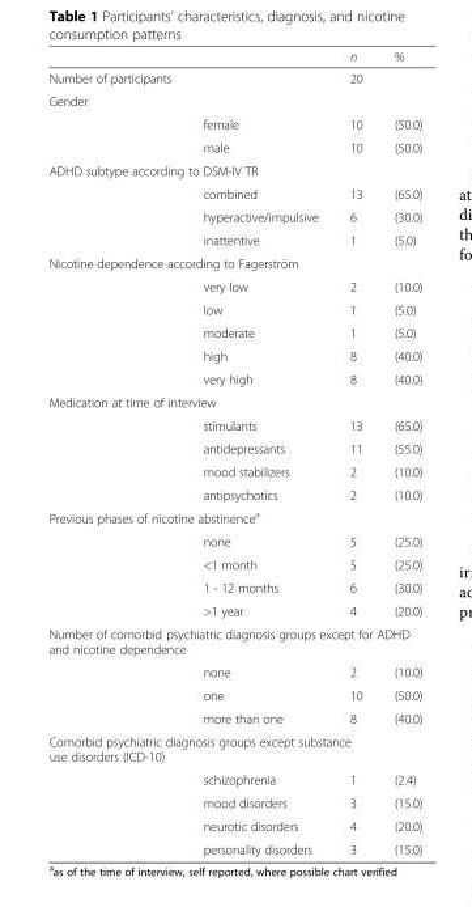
<table><thead><tr><td></td><td></td><td>n</td><td>%</td></tr></thead><tbody><tr><td>Number of participants</td><td></td><td>20</td><td></td></tr><tr><td colspan="4">Gender</td></tr><tr><td></td><td>female</td><td>10</td><td>(50.0)</td></tr><tr><td></td><td>male</td><td>10</td><td>(50.0)</td></tr><tr><td colspan="4">ADHD subtype according to DSM-IV TR</td></tr><tr><td></td><td>combined</td><td>13</td><td>(65.0)</td></tr><tr><td></td><td>hyperactive/impulsive</td><td>6</td><td>(30.0)</td></tr><tr><td></td><td>inattentive</td><td>1</td><td>(5.0)</td></tr><tr><td colspan="4">Nicotine dependence according to Fagerström</td></tr><tr><td></td><td>very low</td><td>2</td><td>(10.0)</td></tr><tr><td></td><td>low</td><td>1</td><td>(5.0)</td></tr><tr><td></td><td>moderate</td><td>1</td><td>(5.0)</td></tr><tr><td rowspan="2"></td><td>high</td><td>8</td><td>(40.0)</td></tr><tr><td>very high</td><td>8</td><td>(40.0)</td></tr><tr><td colspan="4">Medication at time of interview</td></tr><tr><td></td><td>stimulants</td><td>13</td><td>(65.0)</td></tr><tr><td></td><td>antidepressants</td><td>11</td><td>(55.0)</td></tr><tr><td rowspan="2"></td><td>mood stabilizers</td><td>2</td><td>(10.0)</td></tr><tr><td>antipsychotics</td><td>2</td><td>(10.0)</td></tr><tr><td colspan="4">Previous phases of nicotine abstinence<sup>a</sup></td></tr><tr><td></td><td>none</td><td>5</td><td>(25.0)</td></tr><tr><td></td><td>&lt;1 month</td><td>5</td><td>(25.0)</td></tr><tr><td></td><td>1 - 12 months</td><td>6</td><td>(30.0)</td></tr><tr><td></td><td>&gt;1 year</td><td>4</td><td>(20.0)</td></tr><tr><td colspan="4">Number of comorbid psychiatric diagnosis groups except for ADHD and nicotine dependence</td></tr><tr><td></td><td>none</td><td>2</td><td>(10.0)</td></tr><tr><td></td><td>one</td><td>10</td><td>(50.0)</td></tr><tr><td></td><td>more than one</td><td>8</td><td>(40.0)</td></tr><tr><td colspan="4">Comorbid psychiatric diagnosis groups except substance use disorders (ICD-10)</td></tr><tr><td></td><td>schizophrenia</td><td>1</td><td>(2.4)</td></tr><tr><td></td><td>mood disorders</td><td>3</td><td>(15.0)</td></tr><tr><td></td><td>neurotic disorders</td><td>4</td><td>(20.0)</td></tr><tr><td></td><td>personality disorders</td><td>3</td><td>(15.0)</td></tr></tbody></table>